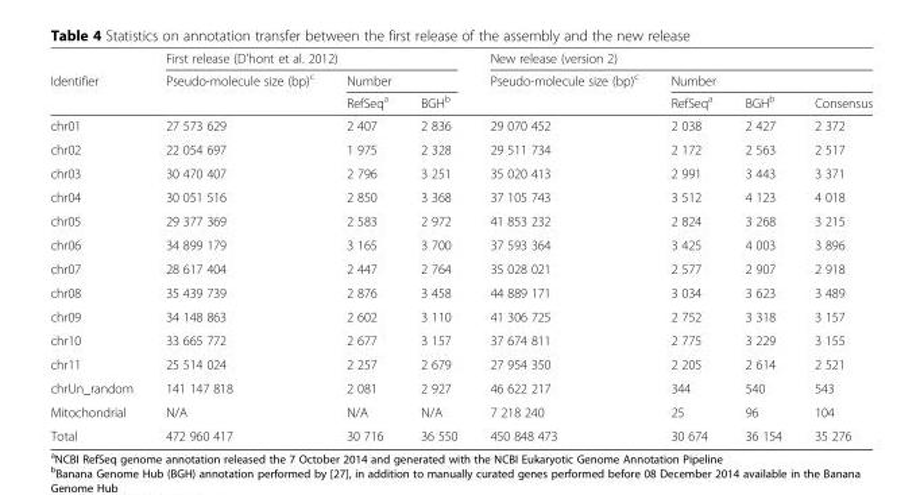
<table><thead><tr><td rowspan="3">Identifier</td><td colspan="3">First release (D&#x27;hont et al. 2012)</td><td colspan="4">New release (version 2)</td></tr><tr><td rowspan="2">Pseudo-molecule size (bp)<sup>c</sup></td><td colspan="2">Number</td><td rowspan="2">Pseudo-molecule size (bp)<sup>c</sup></td><td colspan="3">Number</td></tr><tr><td>RefSeq<sup>a</sup></td><td>BGH<sup>b</sup></td><td>RefSeq<sup>a</sup></td><td>BGH<sup>b</sup></td><td>Consensus</td></tr></thead><tbody><tr><td>chr01</td><td>27 573 629</td><td>2 407</td><td>2 836</td><td>29 070 452</td><td>2 038</td><td>2 427</td><td>2 372</td></tr><tr><td>chr02</td><td>22 054 697</td><td>1 975</td><td>2 328</td><td>29 511 734</td><td>2 172</td><td>2 563</td><td>2 517</td></tr><tr><td>chr03</td><td>30 470 407</td><td>2 796</td><td>3 251</td><td>35 020 413</td><td>2 991</td><td>3 443</td><td>3 371</td></tr><tr><td>chr04</td><td>30 051 516</td><td>2 850</td><td>3 368</td><td>37 105 743</td><td>3 512</td><td>4 123</td><td>4 018</td></tr><tr><td>chr05</td><td>29 377 369</td><td>2 583</td><td>2 972</td><td>41 853 232</td><td>2 824</td><td>3 268</td><td>3 215</td></tr><tr><td>chr06</td><td>34 899 179</td><td>3 165</td><td>3 700</td><td>37 593 364</td><td>3 425</td><td>4 003</td><td>3 896</td></tr><tr><td>chr07</td><td>28 617 404</td><td>2 447</td><td>2 764</td><td>35 028 021</td><td>2 577</td><td>2 907</td><td>2 918</td></tr><tr><td>chr08</td><td>35 439 739</td><td>2 876</td><td>3 458</td><td>44 889 171</td><td>3 034</td><td>3 623</td><td>3 489</td></tr><tr><td>chr09</td><td>34 148 863</td><td>2 602</td><td>3 110</td><td>41 306 725</td><td>2 752</td><td>3 318</td><td>3 157</td></tr><tr><td>chr10</td><td>33 665 772</td><td>2 677</td><td>3 157</td><td>37 674 811</td><td>2 775</td><td>3 229</td><td>3 155</td></tr><tr><td>chr11</td><td>25 514 024</td><td>2 257</td><td>2 679</td><td>27 954 350</td><td>2 205</td><td>2 614</td><td>2 521</td></tr><tr><td>chrUn_random</td><td>141 147 818</td><td>2 081</td><td>2 927</td><td>46 622 217</td><td>344</td><td>540</td><td>543</td></tr><tr><td>Mitochondrial</td><td>N/A</td><td>N/A</td><td>N/A</td><td>7 218 240</td><td>25</td><td>96</td><td>104</td></tr><tr><td>Total</td><td>472 960 417</td><td>30 716</td><td>36 550</td><td>450 848 473</td><td>30 674</td><td>36 154</td><td>35 276</td></tr></tbody></table>